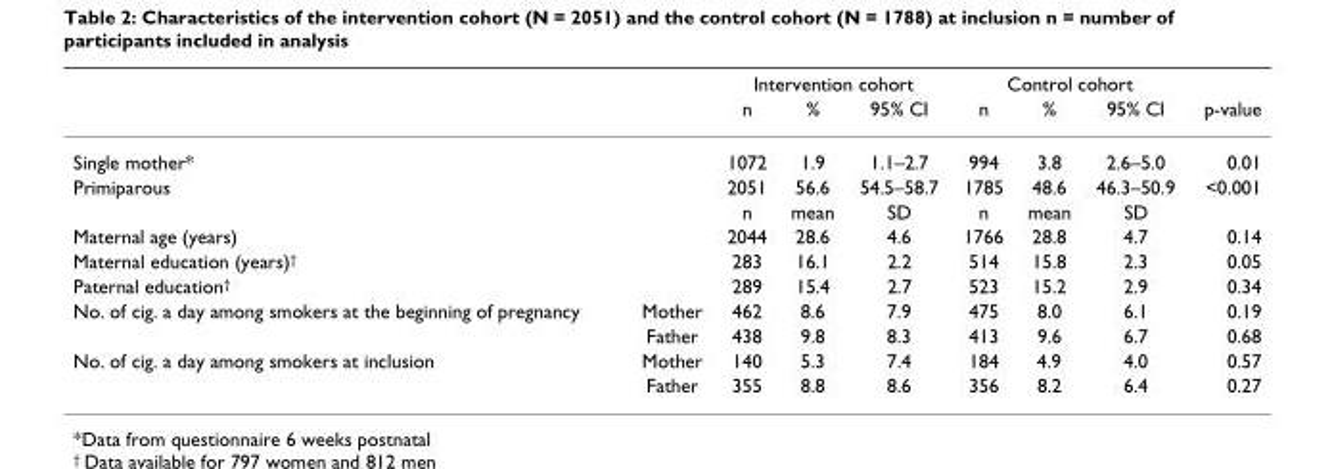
<table><thead><tr><td rowspan="2"></td><td rowspan="2"></td><td colspan="3">Intervention cohort</td><td colspan="3">Control cohort</td><td rowspan="2">p-value</td></tr><tr><td>n</td><td>%</td><td>95% CI</td><td>n</td><td>%</td><td>95% CI</td></tr></thead><tbody><tr><td>Single mother*</td><td></td><td>1072</td><td>1.9</td><td>1.1–2.7</td><td>994</td><td>3.8</td><td>2.6–5.0</td><td>0.01</td></tr><tr><td rowspan="2">Primiparous</td><td></td><td>2051</td><td>56.6</td><td>54.5–58.7</td><td>1785</td><td>48.6</td><td>46.3–50.9</td><td>&lt;0.001</td></tr><tr><td></td><td>n</td><td>mean</td><td>SD</td><td>n</td><td>mean</td><td>SD</td><td></td></tr><tr><td>Maternal age (years)</td><td></td><td>2044</td><td>28.6</td><td>4.6</td><td>1766</td><td>28.8</td><td>4.7</td><td>0.14</td></tr><tr><td>Maternal education (years)<sup>†</sup></td><td></td><td>283</td><td>16.1</td><td>2.2</td><td>514</td><td>15.8</td><td>2.3</td><td>0.05</td></tr><tr><td>Paternal education<sup>†</sup></td><td></td><td>289</td><td>15.4</td><td>2.7</td><td>523</td><td>15.2</td><td>2.9</td><td>0.34</td></tr><tr><td rowspan="2">No. of cig. a day among smokers at the beginning of pregnancy</td><td>Mother</td><td>462</td><td>8.6</td><td>7.9</td><td>475</td><td>8.0</td><td>6.1</td><td>0.19</td></tr><tr><td>Father</td><td>438</td><td>9.8</td><td>8.3</td><td>413</td><td>9.6</td><td>6.7</td><td>0.68</td></tr><tr><td rowspan="2">No. of cig. a day among smokers at inclusion</td><td>Mother</td><td>140</td><td>5.3</td><td>7.4</td><td>184</td><td>4.9</td><td>4.0</td><td>0.57</td></tr><tr><td>Father</td><td>355</td><td>8.8</td><td>8.6</td><td>356</td><td>8.2</td><td>6.4</td><td>0.27</td></tr></tbody></table>